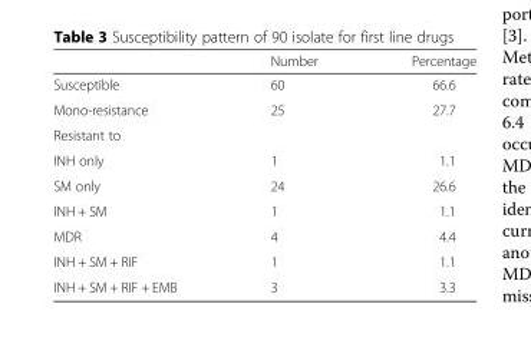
<table><thead><tr><td></td><td>Number</td><td>Percentage</td></tr></thead><tbody><tr><td>Susceptible</td><td>60</td><td>66.6</td></tr><tr><td>Mono-resistance</td><td>25</td><td>27.7</td></tr><tr><td colspan="3">Resistant to</td></tr><tr><td>INH only</td><td>1</td><td>1.1</td></tr><tr><td>SM only</td><td>24</td><td>26.6</td></tr><tr><td>INH + SM</td><td>1</td><td>1.1</td></tr><tr><td>MDR</td><td>4</td><td>4.4</td></tr><tr><td>INH + SM + RIF</td><td>1</td><td>1.1</td></tr><tr><td>INH + SM + RIF + EMB</td><td>3</td><td>3.3</td></tr></tbody></table>